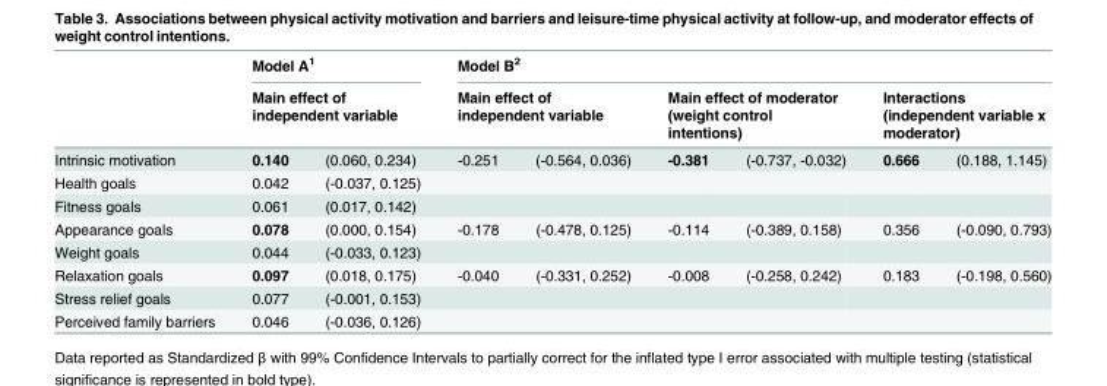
<table><thead><tr><td rowspan="3">Intrinsic motivation</td><td rowspan="2" colspan="2">Model A<sup>1</sup> Main effect of independent variable</td><td colspan="6">Model B<sup>2</sup></td></tr><tr><td colspan="2">Main effect of independent variable</td><td colspan="2">Main effect of moderator (weight control intentions)</td><td colspan="2">Interactions (independent variable x moderator)</td></tr><tr><td>0.140</td><td>(0.060, 0.234)</td><td>-0.251</td><td>(-0.564, 0.036)</td><td>-0.381</td><td>(-0.737, -0.032)</td><td>0.666</td><td>(0.188, 1.145)</td></tr></thead><tbody><tr><td>Health goals</td><td>0.042</td><td>(-0.037, 0.125)</td><td></td><td></td><td></td><td></td><td></td><td></td></tr><tr><td>Fitness goals</td><td>0.061</td><td>(0.017, 0.142)</td><td></td><td></td><td></td><td></td><td></td><td></td></tr><tr><td>Appearance goals</td><td>0.078</td><td>(0.000, 0.154)</td><td>-0.178</td><td>(-0.478, 0.125)</td><td>-0.114</td><td>(-0.389, 0.158)</td><td>0.356</td><td>(-0.090, 0.793)</td></tr><tr><td>Weight goals</td><td>0.044</td><td>(-0.033, 0.123)</td><td></td><td></td><td></td><td></td><td></td><td></td></tr><tr><td>Relaxation goals</td><td>0.097</td><td>(0.018, 0.175)</td><td>-0.040</td><td>(-0.331, 0.252)</td><td>-0.008</td><td>(-0.258, 0.242)</td><td>0.183</td><td>(-0.198, 0.560)</td></tr><tr><td>Stress relief goals</td><td>0.077</td><td>(-0.001, 0.153)</td><td></td><td></td><td></td><td></td><td></td><td></td></tr><tr><td>Perceived family barriers</td><td>0.046</td><td>(-0.036, 0.126)</td><td></td><td></td><td></td><td></td><td></td><td></td></tr></tbody></table>